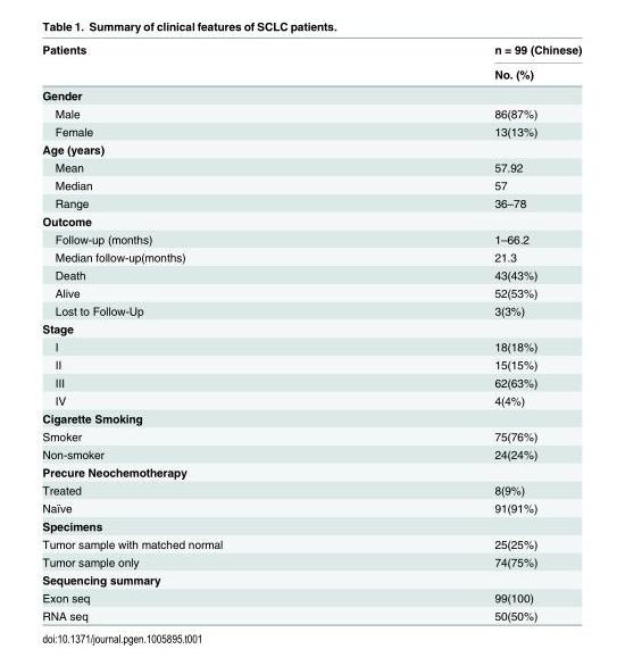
<table><thead><tr><td rowspan="2">Patients</td><td rowspan="2">n = 99 (Chinese) No. (%)</td></tr><tr></tr></thead><tbody><tr><td colspan="2">Gender</td></tr><tr><td>Male</td><td>86(87%)</td></tr><tr><td>Female</td><td>13(13%)</td></tr><tr><td colspan="2">Age (years)</td></tr><tr><td>Mean</td><td>57.92</td></tr><tr><td>Median</td><td>57</td></tr><tr><td>Range</td><td>36–78</td></tr><tr><td colspan="2">Outcome</td></tr><tr><td>Follow-up (months)</td><td>1–66.2</td></tr><tr><td>Median follow-up(months)</td><td>21.3</td></tr><tr><td>Death</td><td>43(43%)</td></tr><tr><td>Alive</td><td>52(53%)</td></tr><tr><td>Lost to Follow-Up</td><td>3(3%)</td></tr><tr><td colspan="2">Stage</td></tr><tr><td>I</td><td>18(18%)</td></tr><tr><td>II</td><td>15(15%)</td></tr><tr><td>III</td><td>62(63%)</td></tr><tr><td>IV</td><td>4(4%)</td></tr><tr><td colspan="2">Cigarette Smoking</td></tr><tr><td>Smoker</td><td>75(76%)</td></tr><tr><td>Non-smoker</td><td>24(24%)</td></tr><tr><td colspan="2">Precure Neochemotherapy</td></tr><tr><td>Treated</td><td>8(9%)</td></tr><tr><td>Naïve</td><td>91(91%)</td></tr><tr><td colspan="2">Specimens</td></tr><tr><td>Tumor sample with matched normal</td><td>25(25%)</td></tr><tr><td>Tumor sample only</td><td>74(75%)</td></tr><tr><td colspan="2">Sequencing summary</td></tr><tr><td>Exon seq</td><td>99(100)</td></tr><tr><td>RNA seq</td><td>50(50%)</td></tr></tbody></table>